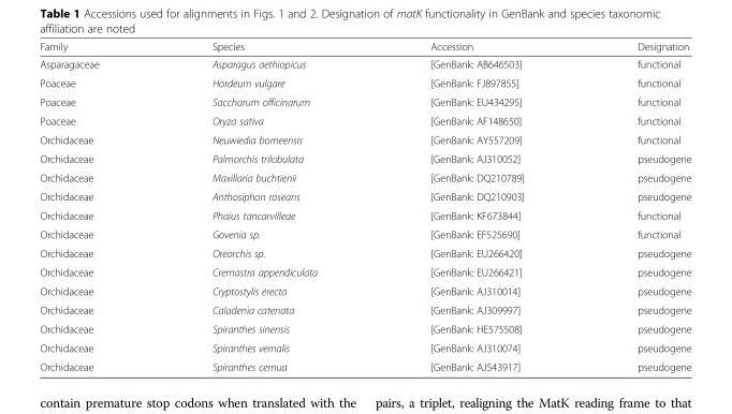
<table><thead><tr><td>Family</td><td>Species</td><td>Accession</td><td>Designation</td></tr></thead><tbody><tr><td>Asparagaceae</td><td>Asparagus aethiopicus</td><td>[GenBank: AB646503]</td><td>functional</td></tr><tr><td>Poaceae</td><td>Hordeum vulgare</td><td>[GenBank: FJ897855]</td><td>functional</td></tr><tr><td>Poaceae</td><td>Saccharum officinarum</td><td>[GenBank: EU434295]</td><td>functional</td></tr><tr><td>Poaceae</td><td>Oryza sativa</td><td>[GenBank: AF148650]</td><td>functional</td></tr><tr><td>Orchidaceae</td><td>Neuwiedia borneensis</td><td>[GenBank: AY557209]</td><td>functional</td></tr><tr><td>Orchidaceae</td><td>Palmorchis trilobulata</td><td>[GenBank: AJ310052]</td><td>pseudogene</td></tr><tr><td>Orchidaceae</td><td>Maxillaria buchtienii</td><td>[GenBank: DQ210789]</td><td>pseudogene</td></tr><tr><td>Orchidaceae</td><td>Anthosiphon roseans</td><td>[GenBank: DQ210903]</td><td>pseudogene</td></tr><tr><td>Orchidaceae</td><td>Phaius tancarvilleae</td><td>[GenBank: KF673844]</td><td>functional</td></tr><tr><td>Orchidaceae</td><td>Govenia sp.</td><td>[GenBank: EF525690]</td><td>functional</td></tr><tr><td>Orchidaceae</td><td>Oreorchis sp.</td><td>[GenBank: EU266420]</td><td>pseudogene</td></tr><tr><td>Orchidaceae</td><td>Cremastra appendiculata</td><td>[GenBank: EU266421]</td><td>pseudogene</td></tr><tr><td>Orchidaceae</td><td>Cryptostylis erecta</td><td>[GenBank: AJ310014]</td><td>pseudogene</td></tr><tr><td>Orchidaceae</td><td>Caladenia catenata</td><td>[GenBank: AJ309997]</td><td>pseudogene</td></tr><tr><td>Orchidaceae</td><td>Spiranthes sinensis</td><td>[GenBank: HE575508]</td><td>pseudogene</td></tr><tr><td>Orchidaceae</td><td>Spiranthes vernalis</td><td>[GenBank: AJ310074]</td><td>pseudogene</td></tr><tr><td>Orchidaceae</td><td>Spiranthes cernua</td><td>[GenBank: AJ543917]</td><td>pseudogene</td></tr></tbody></table>